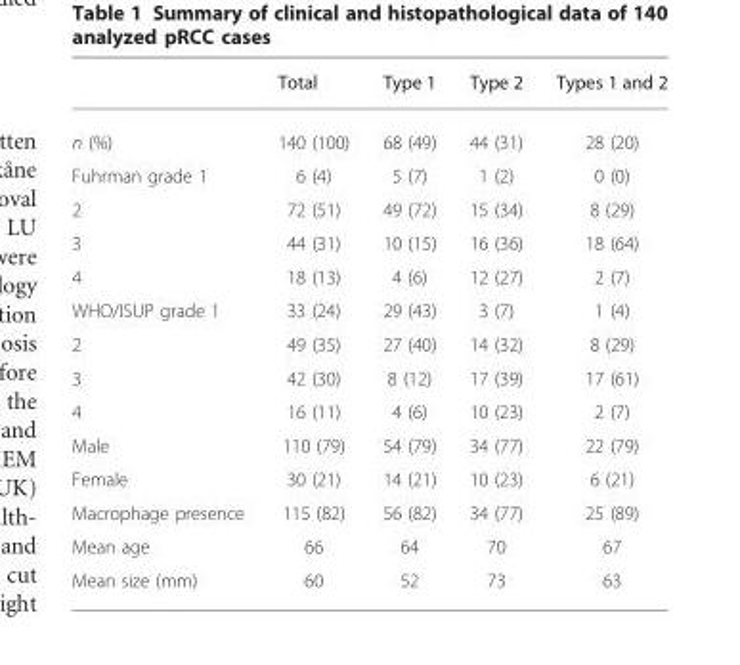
<table><thead><tr><td></td><td>Total</td><td>Type 1</td><td>Type 2</td><td>Types 1 and 2</td></tr></thead><tbody><tr><td>n (%)</td><td>140 (100)</td><td>68 (49)</td><td>44 (31)</td><td>28 (20)</td></tr><tr><td>Fuhrman grade 1</td><td>6 (4)</td><td>5 (7)</td><td>1 (2)</td><td>0 (0)</td></tr><tr><td>2</td><td>72 (51)</td><td>49 (72)</td><td>15 (34)</td><td>8 (29)</td></tr><tr><td>3</td><td>44 (31)</td><td>10 (15)</td><td>16 (36)</td><td>18 (64)</td></tr><tr><td>4</td><td>18 (13)</td><td>4 (6)</td><td>12 (27)</td><td>2 (7)</td></tr><tr><td>WHO/ISUP grade 1</td><td>33 (24)</td><td>29 (43)</td><td>3 (7)</td><td>1 (4)</td></tr><tr><td>2</td><td>49 (35)</td><td>27 (40)</td><td>14 (32)</td><td>8 (29)</td></tr><tr><td>3</td><td>42 (30)</td><td>8 (12)</td><td>17 (39)</td><td>17 (61)</td></tr><tr><td>4</td><td>16 (11)</td><td>4 (6)</td><td>10 (23)</td><td>2 (7)</td></tr><tr><td>Male</td><td>110 (79)</td><td>54 (79)</td><td>34 (77)</td><td>22 (79)</td></tr><tr><td>Female</td><td>30 (21)</td><td>14 (21)</td><td>10 (23)</td><td>6 (21)</td></tr><tr><td>Macrophage presence</td><td>115 (82)</td><td>56 (82)</td><td>34 (77)</td><td>25 (89)</td></tr><tr><td>Mean age</td><td>66</td><td>64</td><td>70</td><td>67</td></tr><tr><td>Mean size (mm)</td><td>60</td><td>52</td><td>73</td><td>63</td></tr></tbody></table>